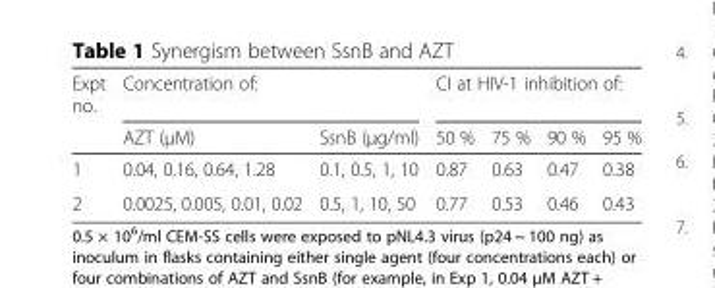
<table><thead><tr><td rowspan="2">Expt no.</td><td colspan="2">Concentration of:</td><td colspan="4">CI at HIV-1 inhibition of:</td></tr><tr><td>AZT (μM)</td><td>SsnB (μg/ml)</td><td>50 %</td><td>75 %</td><td>90 %</td><td>95 %</td></tr></thead><tbody><tr><td>1</td><td>0.04, 0.16, 0.64, 1.28</td><td>0.1, 0.5, 1, 10</td><td>0.87</td><td>0.63</td><td>0.47</td><td>0.38</td></tr><tr><td>2</td><td>0.0025, 0.005, 0.01, 0.02</td><td>0.5, 1, 10, 50</td><td>0.77</td><td>0.53</td><td>0.46</td><td>0.43</td></tr></tbody></table>